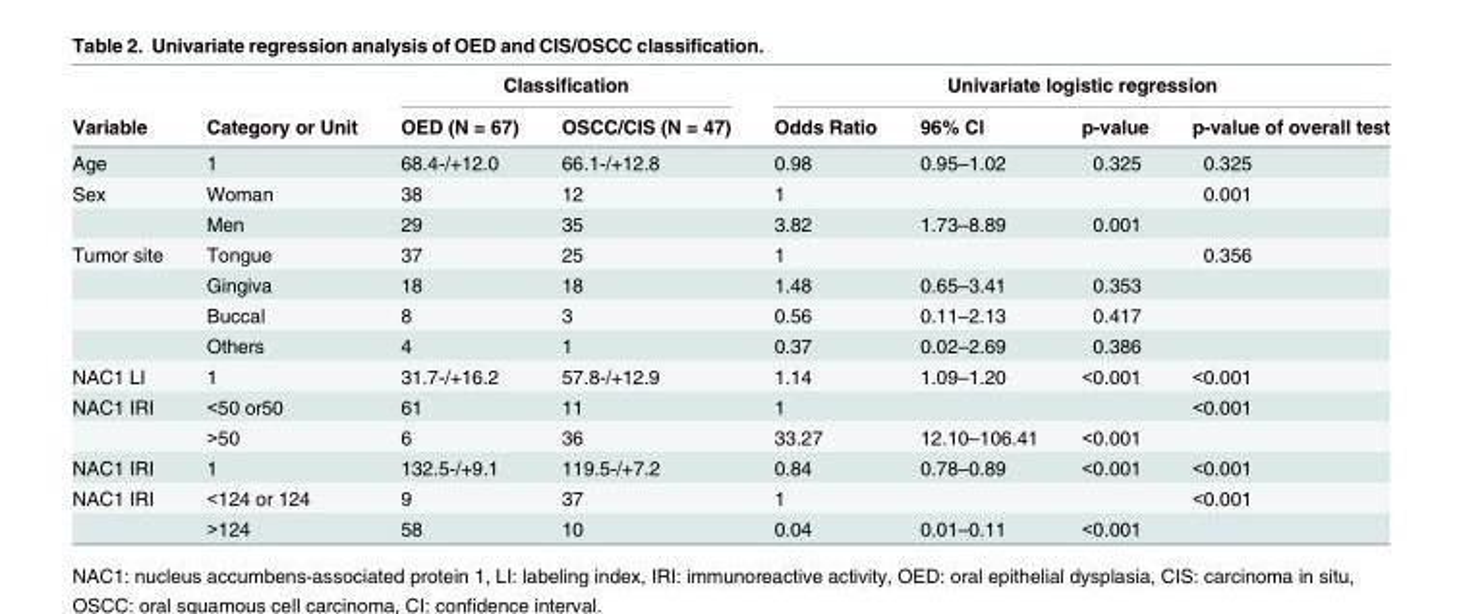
<table><thead><tr><td rowspan="2">Variable</td><td rowspan="2">Category or Unit</td><td colspan="2">Classification</td><td colspan="4">Univariate logistic regression</td></tr><tr><td>OED (N = 67)</td><td>OSCC/CIS (N = 47)</td><td>Odds Ratio</td><td>96% Cl</td><td>p-value</td><td>p-value of overall test</td></tr></thead><tbody><tr><td>Age</td><td>1</td><td>68.4-/+12.0</td><td>66.1-/+12.8</td><td>0.98</td><td>0.95–1.02</td><td>0.325</td><td>0.325</td></tr><tr><td rowspan="2">Sex</td><td>Woman</td><td>38</td><td>12</td><td>1</td><td></td><td></td><td>0.001</td></tr><tr><td>Men</td><td>29</td><td>35</td><td>3.82</td><td>1.73–8.89</td><td>0.001</td><td></td></tr><tr><td rowspan="4">Tumor site</td><td>Tongue</td><td>37</td><td>25</td><td>1</td><td></td><td></td><td>0.356</td></tr><tr><td>Gingiva</td><td>18</td><td>18</td><td>1.48</td><td>0.65–3.41</td><td>0.353</td><td></td></tr><tr><td>Buccal</td><td>8</td><td>3</td><td>0.56</td><td>0.11–2.13</td><td>0.417</td><td></td></tr><tr><td>Others</td><td>4</td><td>1</td><td>0.37</td><td>0.02–2.69</td><td>0.386</td><td></td></tr><tr><td>NAC1 LI</td><td>1</td><td>31.7-/+16.2</td><td>57.8-/+12.9</td><td>1.14</td><td>1.09–1.20</td><td>&lt;0.001</td><td>&lt;0.001</td></tr><tr><td rowspan="2">NAC1 IRI</td><td>&lt;50 or50</td><td>61</td><td>11</td><td>1</td><td></td><td></td><td>&lt;0.001</td></tr><tr><td>&gt;50</td><td>6</td><td>36</td><td>33.27</td><td>12.10–106.41</td><td>&lt;0.001</td><td></td></tr><tr><td>NAC1 IRI</td><td>1</td><td>132.5-/+9.1</td><td>119.5-/+7.2</td><td>0.84</td><td>0.78–0.89</td><td>&lt;0.001</td><td>&lt;0.001</td></tr><tr><td rowspan="2">NAC1 IRI</td><td>&lt;124 or 124</td><td>9</td><td>37</td><td>1</td><td></td><td></td><td>&lt;0.001</td></tr><tr><td>&gt;124</td><td>58</td><td>10</td><td>0.04</td><td>0.01–0.11</td><td>&lt;0.001</td><td></td></tr></tbody></table>